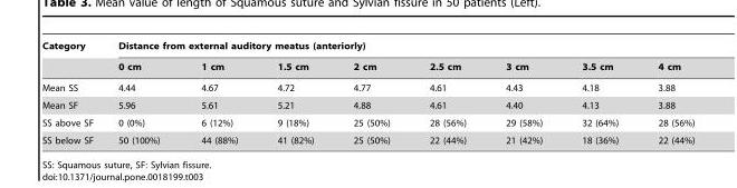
<table><thead><tr><td rowspan="2">Category</td><td colspan="8">Distance from external auditory meatus (anteriorly)</td></tr><tr><td>0 cm</td><td>1 cm</td><td>1.5 cm</td><td>2 cm</td><td>2.5 cm</td><td>3 cm</td><td>3.5 cm</td><td>4 cm</td></tr></thead><tbody><tr><td>Mean SS</td><td>4.44</td><td>4.67</td><td>4.72</td><td>4.77</td><td>4.61</td><td>4.43</td><td>4.18</td><td>3.88</td></tr><tr><td>Mean SF</td><td>5.96</td><td>5.61</td><td>5.21</td><td>4.88</td><td>4.61</td><td>4.40</td><td>4.13</td><td>3.88</td></tr><tr><td>SS above SF</td><td>0 (0%)</td><td>6 (12%)</td><td>9 (18%)</td><td>25 (50%)</td><td>28 (56%)</td><td>29 (58%)</td><td>32 (64%)</td><td>28 (56%)</td></tr><tr><td>SS below SF</td><td>50 (100%)</td><td>44 (88%)</td><td>41 (82%)</td><td>25 (50%)</td><td>22 (44%)</td><td>21 (42%)</td><td>18 (36%)</td><td>22 (44%)</td></tr></tbody></table>